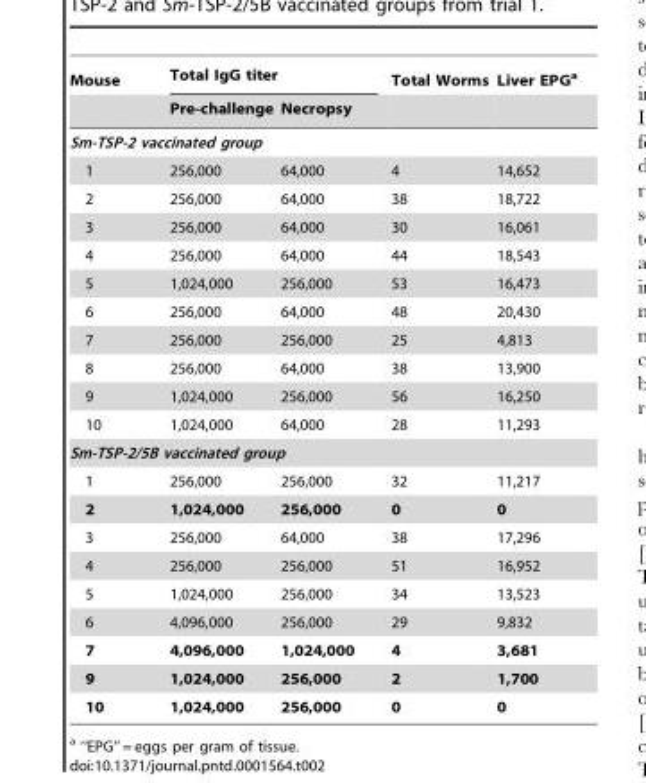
<table><thead><tr><td rowspan="2">Mouse</td><td colspan="2">Total IgG titer</td><td rowspan="2">Total Worms</td><td rowspan="2">Liver EPG<sup>a</sup></td></tr><tr><td>Pre-challenge</td><td>Necropsy</td></tr></thead><tbody><tr><td colspan="5">Sm-TSP-2 vaccinated group</td></tr><tr><td>1</td><td>256,000</td><td>64,000</td><td>4</td><td>14,652</td></tr><tr><td>2</td><td>256,000</td><td>64,000</td><td>38</td><td>18,722</td></tr><tr><td>3</td><td>256,000</td><td>64,000</td><td>30</td><td>16,061</td></tr><tr><td>4</td><td>256,000</td><td>64,000</td><td>44</td><td>18,543</td></tr><tr><td>5</td><td>1,024,000</td><td>256,000</td><td>53</td><td>16,473</td></tr><tr><td>6</td><td>256,000</td><td>64,000</td><td>48</td><td>20,430</td></tr><tr><td>7</td><td>256,000</td><td>256,000</td><td>25</td><td>4,813</td></tr><tr><td>8</td><td>256,000</td><td>64,000</td><td>38</td><td>13,900</td></tr><tr><td>9</td><td>1,024,000</td><td>256,000</td><td>56</td><td>16,250</td></tr><tr><td>10</td><td>1,024,000</td><td>64,000</td><td>28</td><td>11,293</td></tr><tr><td colspan="5">Sm-TSP-2/5B vaccinated group</td></tr><tr><td>1</td><td>256,000</td><td>256,000</td><td>32</td><td>11,217</td></tr><tr><td>2</td><td>1,024,000</td><td>256,000</td><td>0</td><td>0</td></tr><tr><td>3</td><td>256,000</td><td>64,000</td><td>38</td><td>17,296</td></tr><tr><td>4</td><td>256,000</td><td>256,000</td><td>51</td><td>16,952</td></tr><tr><td>5</td><td>1,024,000</td><td>256,000</td><td>34</td><td>13,523</td></tr><tr><td>6</td><td>4,096,000</td><td>256,000</td><td>29</td><td>9,832</td></tr><tr><td>7</td><td>4,096,000</td><td>1,024,000</td><td>4</td><td>3,681</td></tr><tr><td>9</td><td>1,024,000</td><td>256,000</td><td>2</td><td>1,700</td></tr><tr><td>10</td><td>1,024,000</td><td>256,000</td><td>0</td><td>0</td></tr></tbody></table>